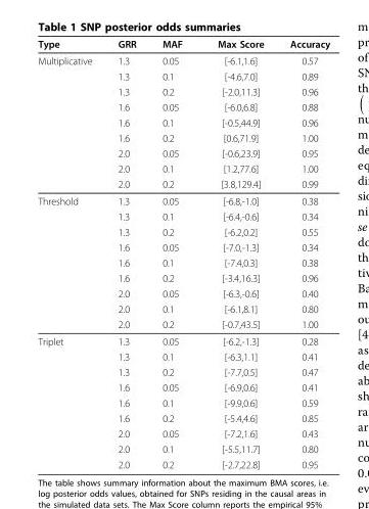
<table><thead><tr><td>Type</td><td>GRR</td><td>MAF</td><td>Max Score</td><td>Accuracy</td></tr></thead><tbody><tr><td rowspan="9">Multiplicative</td><td>1.3</td><td>0.05</td><td>[-6.1,1.6]</td><td>0.57</td></tr><tr><td>1.3</td><td>0.1</td><td>[-4.6,7.0]</td><td>0.89</td></tr><tr><td>1.3</td><td>0.2</td><td>[-2.0,11.3]</td><td>0.96</td></tr><tr><td>1.6</td><td>0.05</td><td>[-6.0,6.8]</td><td>0.88</td></tr><tr><td>1.6</td><td>0.1</td><td>[-0.5,44.9]</td><td>0.96</td></tr><tr><td>1.6</td><td>0.2</td><td>[0.6,71.9]</td><td>1.00</td></tr><tr><td>2.0</td><td>0.05</td><td>[-0.6,23.9]</td><td>0.95</td></tr><tr><td>2.0</td><td>0.1</td><td>[1.2,77.6]</td><td>1.00</td></tr><tr><td>2.0</td><td>0.2</td><td>[3.8,129.4]</td><td>0.99</td></tr><tr><td rowspan="9">Threshold</td><td>1.3</td><td>0.05</td><td>[-6.8,-1.0]</td><td>0.38</td></tr><tr><td>1.3</td><td>0.1</td><td>[-6.4,-0.6]</td><td>0.34</td></tr><tr><td>1.3</td><td>0.2</td><td>[-6.2,0.2]</td><td>0.55</td></tr><tr><td>1.6</td><td>0.05</td><td>[-7.0,-1.3]</td><td>0.34</td></tr><tr><td>1.6</td><td>0.1</td><td>[-7.4,0.3]</td><td>0.38</td></tr><tr><td>1.6</td><td>0.2</td><td>[-3.4,16.3]</td><td>0.96</td></tr><tr><td>2.0</td><td>0.05</td><td>[-6.3,-0.6]</td><td>0.40</td></tr><tr><td>2.0</td><td>0.1</td><td>[-6.1,8.1]</td><td>0.80</td></tr><tr><td>2.0</td><td>0.2</td><td>[-0.7,43.5]</td><td>1.00</td></tr><tr><td rowspan="9">Triplet</td><td>1.3</td><td>0.05</td><td>[-6.2,-1.3]</td><td>0.28</td></tr><tr><td>1.3</td><td>0.1</td><td>[-6.3,1.1]</td><td>0.41</td></tr><tr><td>1.3</td><td>0.2</td><td>[-7.7,0.5]</td><td>0.47</td></tr><tr><td>1.6</td><td>0.05</td><td>[-6.9,0.6]</td><td>0.41</td></tr><tr><td>1.6</td><td>0.1</td><td>[-9.9,0.6]</td><td>0.59</td></tr><tr><td>1.6</td><td>0.2</td><td>[-5.4,4.6]</td><td>0.85</td></tr><tr><td>2.0</td><td>0.05</td><td>[-7.2,1.6]</td><td>0.43</td></tr><tr><td>2.0</td><td>0.1</td><td>[-5.5,11.7]</td><td>0.80</td></tr><tr><td>2.0</td><td>0.2</td><td>[-2.7,22.8]</td><td>0.95</td></tr></tbody></table>